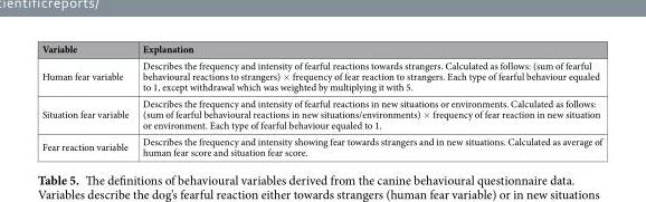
<table><thead><tr><td>Variable</td><td>Explanation</td></tr></thead><tbody><tr><td>Human fear variable</td><td>Describes the frequency and intensity of fearful reactions towards strangers. Calculated as follows: (sum of fearful behavioural reactions to strangers) × frequency of fear reaction to strangers. Each type of fearful behaviour equaled to 1, except withdrawal which was weighted by multiplying it with 5.</td></tr><tr><td>Situation fear variable</td><td>Describes the frequency and intensity of fearful reactions in new situations or environments. Calculated as follows: (sum of fearful behavioural reactions in new situations/environments) × frequency of fear reaction in new situation or environment. Each type of fearful behaviour equaled to 1.</td></tr><tr><td>Fear reaction variable</td><td>Describes the frequency and intensity showing fear towards strangers and in new situations. Calculated as average of human fear score and situation fear score.</td></tr></tbody></table>